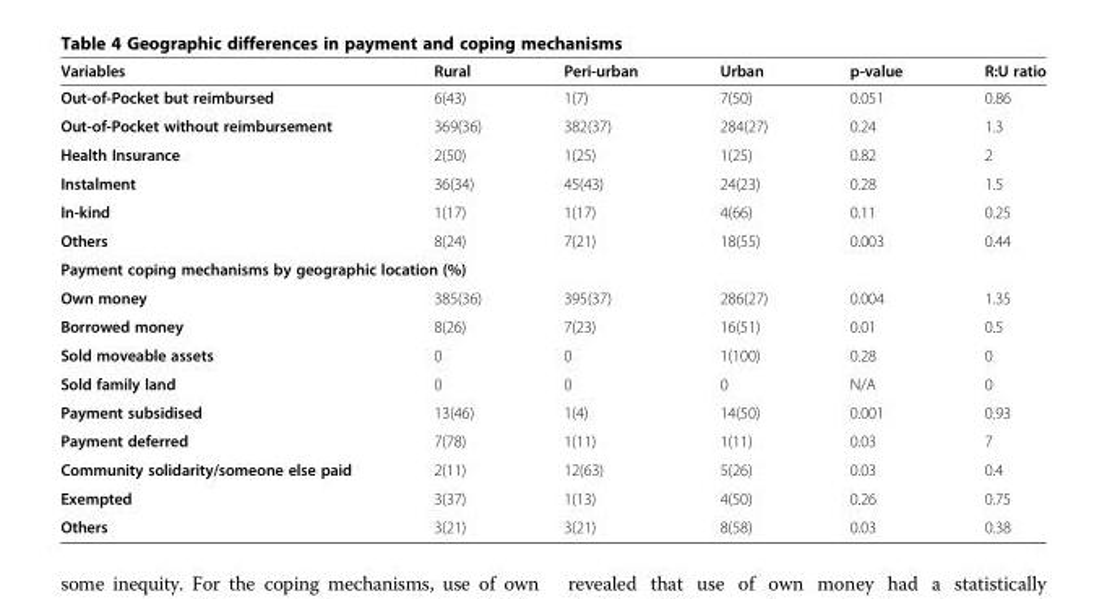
<table><thead><tr><td>Variables</td><td>Rural</td><td>Peri-urban</td><td>Urban</td><td>p-value</td><td>R:U ratio</td></tr></thead><tbody><tr><td>Out-of-Pocket but reimbursed</td><td>6(43)</td><td>1(7)</td><td>7(50)</td><td>0.051</td><td>0.86</td></tr><tr><td>Out-of-Pocket without reimbursement</td><td>369(36)</td><td>382(37)</td><td>284(27)</td><td>0.24</td><td>1.3</td></tr><tr><td>Health Insurance</td><td>2(50)</td><td>1(25)</td><td>1(25)</td><td>0.82</td><td>2</td></tr><tr><td>Instalment</td><td>36(34)</td><td>45(43)</td><td>24(23)</td><td>0.28</td><td>1.5</td></tr><tr><td>In-kind</td><td>1(17)</td><td>1(17)</td><td>4(66)</td><td>0.11</td><td>0.25</td></tr><tr><td>Others</td><td>8(24)</td><td>7(21)</td><td>18(55)</td><td>0.003</td><td>0.44</td></tr><tr><td colspan="6">Payment coping mechanisms by geographic location (%)</td></tr><tr><td>Own money</td><td>385(36)</td><td>395(37)</td><td>286(27)</td><td>0.004</td><td>1.35</td></tr><tr><td>Borrowed money</td><td>8(26)</td><td>7(23)</td><td>16(51)</td><td>0.01</td><td>0.5</td></tr><tr><td>Sold moveable assets</td><td>0</td><td>0</td><td>1(100)</td><td>0.28</td><td>0</td></tr><tr><td>Sold family land</td><td>0</td><td>0</td><td>0</td><td>N/A</td><td>0</td></tr><tr><td>Payment subsidised</td><td>13(46)</td><td>1(4)</td><td>14(50)</td><td>0.001</td><td>0.93</td></tr><tr><td>Payment deferred</td><td>7(78)</td><td>1(11)</td><td>1(11)</td><td>0.03</td><td>7</td></tr><tr><td>Community solidarity/someone else paid</td><td>2(11)</td><td>12(63)</td><td>5(26)</td><td>0.03</td><td>0.4</td></tr><tr><td>Exempted</td><td>3(37)</td><td>1(13)</td><td>4(50)</td><td>0.26</td><td>0.75</td></tr><tr><td>Others</td><td>3(21)</td><td>3(21)</td><td>8(58)</td><td>0.03</td><td>0.38</td></tr></tbody></table>